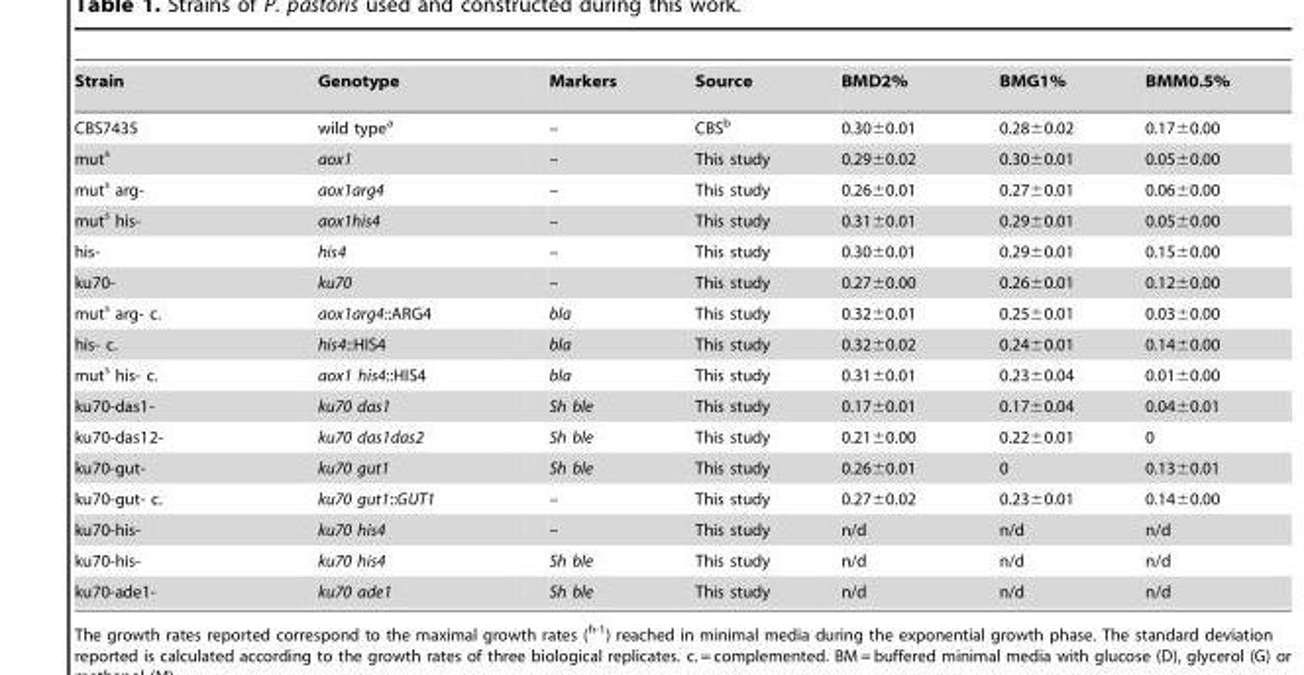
<table><tbody><tr><td>Strain</td><td>Genotype</td><td>Markers</td><td>Source</td><td>BMD2%</td><td>BMG1%</td><td>BMM0.5%</td></tr><tr><td>CBS7435</td><td>wild type<sup>a</sup></td><td>–</td><td>CBS<sup>b</sup></td><td>0.30±0.01</td><td>0.28±0.02</td><td>0.17±0.00</td></tr><tr><td>mut<sup>s</sup></td><td>aox1</td><td>–</td><td>This study</td><td>0.29±0.02</td><td>0.30±0.01</td><td>0.05±0.00</td></tr><tr><td>mut<sup>s</sup> arg-</td><td>aox1arg4</td><td>–</td><td>This study</td><td>0.26±0.01</td><td>0.27±0.01</td><td>0.06±0.00</td></tr><tr><td>mut<sup>s</sup> his-</td><td>aox1his4</td><td>–</td><td>This study</td><td>0.31±0.01</td><td>0.29±0.01</td><td>0.05±0.00</td></tr><tr><td>his-</td><td>his4</td><td>–</td><td>This study</td><td>0.30±0.01</td><td>0.29±0.01</td><td>0.15±0.00</td></tr><tr><td>ku70-</td><td>ku70</td><td>–</td><td>This study</td><td>0.27±0.00</td><td>0.26±0.01</td><td>0.12±0.00</td></tr><tr><td>mut<sup>s</sup> arg- c.</td><td>aox1arg4::ARG4</td><td>bla</td><td>This study</td><td>0.32±0.01</td><td>0.25±0.01</td><td>0.03±0.00</td></tr><tr><td>his- c.</td><td>his4::HIS4</td><td>bla</td><td>This study</td><td>0.32±0.02</td><td>0.24±0.01</td><td>0.14±0.00</td></tr><tr><td>mut<sup>s</sup> his- c.</td><td>aox1 his4::HIS4</td><td>bla</td><td>This study</td><td>0.31±0.01</td><td>0.23±0.04</td><td>0.01±0.00</td></tr><tr><td>ku70-das1-</td><td>ku70 das1</td><td>Sh ble</td><td>This study</td><td>0.17±0.01</td><td>0.17±0.04</td><td>0.04±0.01</td></tr><tr><td>ku70-das12-</td><td>ku70 das1das2</td><td>Sh ble</td><td>This study</td><td>0.21±0.00</td><td>0.22±0.01</td><td>0</td></tr><tr><td>ku70-gut-</td><td>ku70 gut1</td><td>Sh ble</td><td>This study</td><td>0.26±0.01</td><td>0</td><td>0.13±0.01</td></tr><tr><td>ku70-gut- c.</td><td>ku70 gut1::GUT1</td><td>–</td><td>This study</td><td>0.27±0.02</td><td>0.23±0.01</td><td>0.14±0.00</td></tr><tr><td>ku70-his-</td><td>ku70 his4</td><td>–</td><td>This study</td><td>n/d</td><td>n/d</td><td>n/d</td></tr><tr><td>ku70-his-</td><td>ku70 his4</td><td>Sh ble</td><td>This study</td><td>n/d</td><td>n/d</td><td>n/d</td></tr><tr><td>ku70-ade1-</td><td>ku70 ade1</td><td>Sh ble</td><td>This study</td><td>n/d</td><td>n/d</td><td>n/d</td></tr></tbody></table>